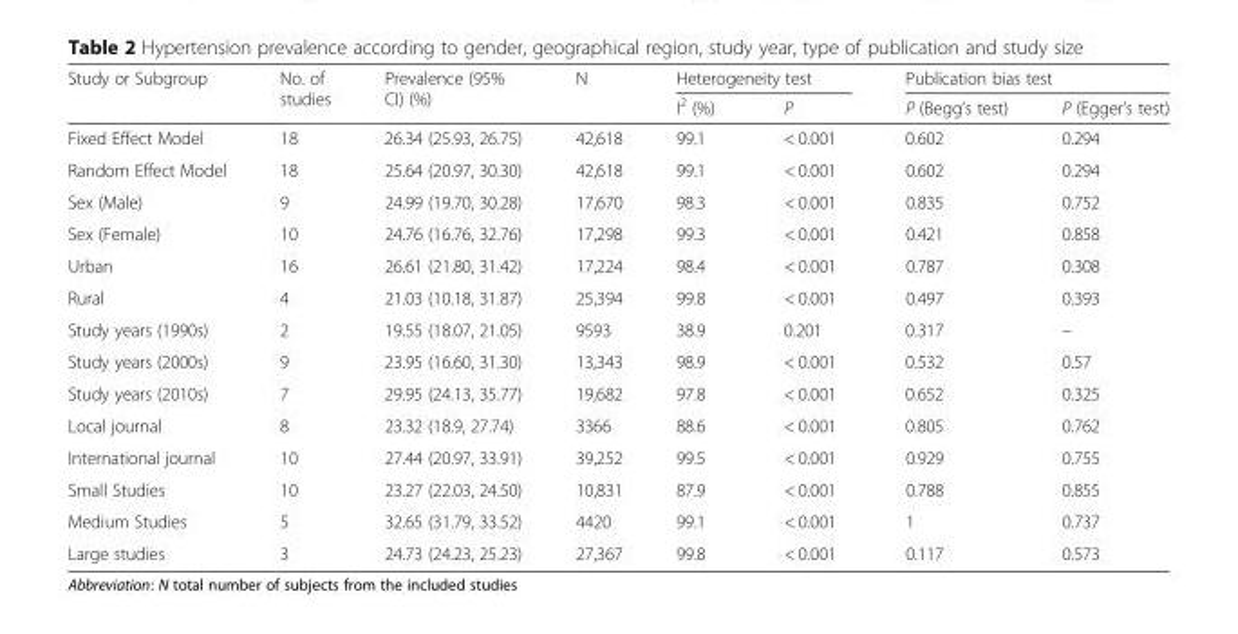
<table><thead><tr><td rowspan="2">Study or Subgroup</td><td rowspan="2">No. of studies</td><td rowspan="2">Prevalence (95% CI) (%)</td><td rowspan="2">N</td><td colspan="2">Heterogeneity test</td><td colspan="2">Publication bias test</td></tr><tr><td>I<sup>2</sup> (%)</td><td>P</td><td>P (Begg’s test)</td><td>P (Egger’s test)</td></tr></thead><tbody><tr><td>Fixed Effect Model</td><td>18</td><td>26.34 (25.93, 26.75)</td><td>42,618</td><td>99.1</td><td>&lt; 0.001</td><td>0.602</td><td>0.294</td></tr><tr><td>Random Effect Model</td><td>18</td><td>25.64 (20.97, 30.30)</td><td>42,618</td><td>99.1</td><td>&lt; 0.001</td><td>0.602</td><td>0.294</td></tr><tr><td>Sex (Male)</td><td>9</td><td>24.99 (19.70, 30.28)</td><td>17,670</td><td>98.3</td><td>&lt; 0.001</td><td>0.835</td><td>0.752</td></tr><tr><td>Sex (Female)</td><td>10</td><td>24.76 (16.76, 32.76)</td><td>17,298</td><td>99.3</td><td>&lt; 0.001</td><td>0.421</td><td>0.858</td></tr><tr><td>Urban</td><td>16</td><td>26.61 (21.80, 31.42)</td><td>17,224</td><td>98.4</td><td>&lt; 0.001</td><td>0.787</td><td>0.308</td></tr><tr><td>Rural</td><td>4</td><td>21.03 (10.18, 31.87)</td><td>25,394</td><td>99.8</td><td>&lt; 0.001</td><td>0.497</td><td>0.393</td></tr><tr><td>Study years (1990s)</td><td>2</td><td>19.55 (18.07, 21.05)</td><td>9593</td><td>38.9</td><td>0.201</td><td>0.317</td><td>–</td></tr><tr><td>Study years (2000s)</td><td>9</td><td>23.95 (16.60, 31.30)</td><td>13,343</td><td>98.9</td><td>&lt; 0.001</td><td>0.532</td><td>0.57</td></tr><tr><td>Study years (2010s)</td><td>7</td><td>29.95 (24.13, 35.77)</td><td>19,682</td><td>97.8</td><td>&lt; 0.001</td><td>0.652</td><td>0.325</td></tr><tr><td>Local journal</td><td>8</td><td>23.32 (18.9, 27.74)</td><td>3366</td><td>88.6</td><td>&lt; 0.001</td><td>0.805</td><td>0.762</td></tr><tr><td>International journal</td><td>10</td><td>27.44 (20.97, 33.91)</td><td>39,252</td><td>99.5</td><td>&lt; 0.001</td><td>0.929</td><td>0.755</td></tr><tr><td>Small Studies</td><td>10</td><td>23.27 (22.03, 24.50)</td><td>10,831</td><td>87.9</td><td>&lt; 0.001</td><td>0.788</td><td>0.855</td></tr><tr><td>Medium Studies</td><td>5</td><td>32.65 (31.79, 33.52)</td><td>4420</td><td>99.1</td><td>&lt; 0.001</td><td>1</td><td>0.737</td></tr><tr><td>Large studies</td><td>3</td><td>24.73 (24.23, 25.23)</td><td>27,367</td><td>99.8</td><td>&lt; 0.001</td><td>0.117</td><td>0.573</td></tr></tbody></table>